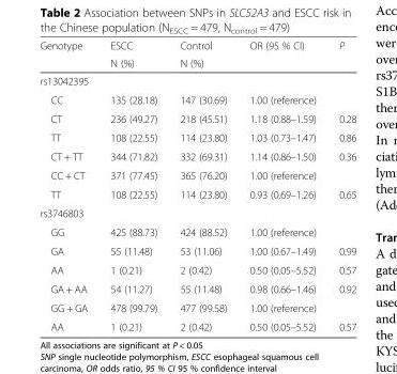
<table><thead><tr><td rowspan="2">Genotype</td><td rowspan="2">ESCC N (%)</td><td rowspan="2">Control N (%)</td><td rowspan="2">OR (95 % CI)</td><td rowspan="2">P</td></tr><tr></tr></thead><tbody><tr><td colspan="5">rs13042395</td></tr><tr><td>CC</td><td>135 (28.18)</td><td>147 (30.69)</td><td>1.00 (reference)</td><td></td></tr><tr><td>CT</td><td>236 (49.27)</td><td>218 (45.51)</td><td>1.18 (0.88–1.59)</td><td>0.28</td></tr><tr><td>TT</td><td>108 (22.55)</td><td>114 (23.80)</td><td>1.03 (0.73–1.47)</td><td>0.86</td></tr><tr><td>CT + TT</td><td>344 (71.82)</td><td>332 (69.31)</td><td>1.14 (0.86–1.50)</td><td>0.36</td></tr><tr><td>CC + CT</td><td>371 (77.45)</td><td>365 (76.20)</td><td>1.00 (reference)</td><td></td></tr><tr><td>TT</td><td>108 (22.55)</td><td>114 (23.80)</td><td>0.93 (0.69–1.26)</td><td>0.65</td></tr><tr><td colspan="5">rs3746803</td></tr><tr><td>GG</td><td>425 (88.73)</td><td>424 (88.52)</td><td>1.00 (reference)</td><td></td></tr><tr><td>GA</td><td>55 (11.48)</td><td>53 (11.06)</td><td>1.00 (0.67–1.49)</td><td>0.99</td></tr><tr><td>AA</td><td>1 (0.21)</td><td>2 (0.42)</td><td>0.50 (0.05–5.52)</td><td>0.57</td></tr><tr><td>GA + AA</td><td>54 (11.27)</td><td>55 (11.48)</td><td>0.98 (0.66–1.46)</td><td>0.92</td></tr><tr><td>GG + GA</td><td>478 (99.79)</td><td>477 (99.58)</td><td>1.00 (reference)</td><td></td></tr><tr><td>AA</td><td>1 (0.21)</td><td>2 (0.42)</td><td>0.50 (0.05–5.52)</td><td>0.57</td></tr></tbody></table>